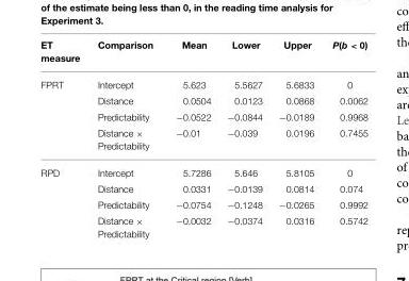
<table><thead><tr><td>ET measure</td><td>Comparison</td><td>Mean</td><td>Lower</td><td>Upper</td><td>P(b &lt; 0)</td></tr></thead><tbody><tr><td rowspan="4">FPRT</td><td>Intercept</td><td>5.623</td><td>5.5627</td><td>5.6833</td><td>0</td></tr><tr><td>Distance</td><td>0.0504</td><td>0.0123</td><td>0.0868</td><td>0.0062</td></tr><tr><td>Predictability</td><td>−0.0522</td><td>−0.0844</td><td>−0.0189</td><td>0.9968</td></tr><tr><td>Distance × Predictability</td><td>−0.01</td><td>−0.039</td><td>0.0196</td><td>0.7455</td></tr><tr><td rowspan="4">RPD</td><td>Intercept</td><td>5.7286</td><td>5.646</td><td>5.8105</td><td>0</td></tr><tr><td>Distance</td><td>0.0331</td><td>−0.0139</td><td>0.0814</td><td>0.074</td></tr><tr><td>Predictability</td><td>−0.0754</td><td>−0.1248</td><td>−0.0265</td><td>0.9992</td></tr><tr><td>Distance × Predictability</td><td>−0.0032</td><td>−0.0374</td><td>0.0316</td><td>0.5742</td></tr></tbody></table>